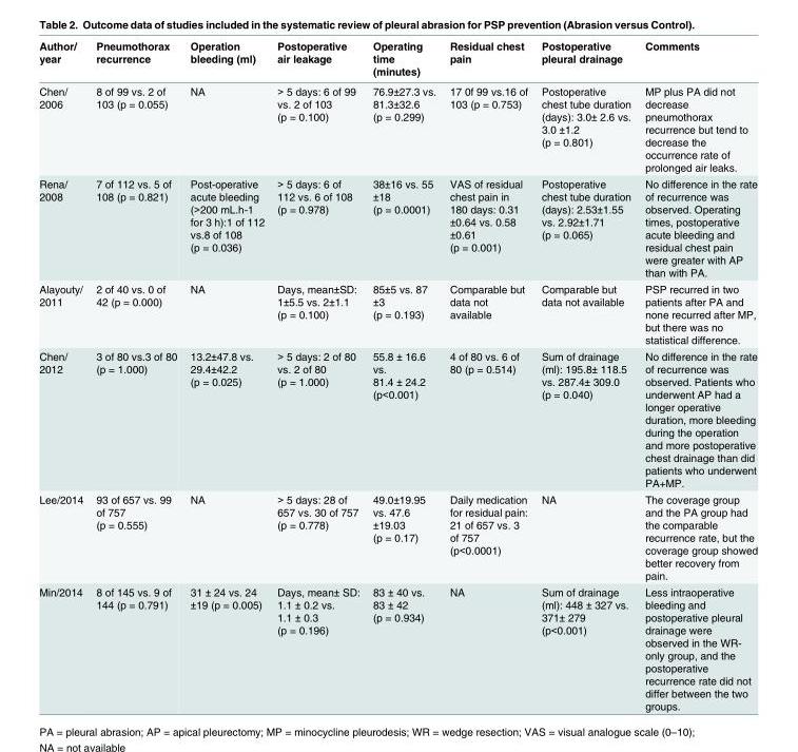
<table><thead><tr><td>Author/ year</td><td>Pneumothorax recurrence</td><td>Operation bleeding (ml)</td><td>Postoperative air leakage</td><td>Operating time (minutes)</td><td>Residual chest pain</td><td>Postoperative pleural drainage</td><td>Comments</td></tr></thead><tbody><tr><td>Chen/ 2006</td><td>8 of 99 vs. 2 of 103 (p = 0.055)</td><td>NA</td><td>&gt; 5 days: 6 of 99 vs. 2 of 103 (p = 0.100)</td><td>76.9±27.3 vs. 81.3±32.6 (p = 0.299)</td><td>17 0f 99 vs.16 of 103 (p = 0.753)</td><td>Postoperative chest tube duration (days): 3.0± 2.6 vs. 3.0 ±1.2 (p = 0.801)</td><td>MP plus PA did not decrease pneumothorax recurrence but tend to decrease the occurrence rate of prolonged air leaks.</td></tr><tr><td>Rena/ 2008</td><td>7 of 112 vs. 5 of 108 (p = 0.821)</td><td>Post-operative acute bleeding (&gt;200 mL.h-1 for 3 h):1 of 112 vs.8 of 108 (p = 0.036)</td><td>&gt; 5 days: 6 of 112 vs. 6 of 108 (p = 0.978)</td><td>38±16 vs. 55 ±18 (p = 0.0001)</td><td>VAS of residual chest pain in 180 days: 0.31 ±0.64 vs. 0.58 ±0.61 (p = 0.001)</td><td>Postoperative chest tube duration (days): 2.53±1.55 vs. 2.92±1.71 (p = 0.065)</td><td>No difference in the rate of recurrence was observed. Operating times, postoperative acute bleeding and residual chest pain were greater with AP than with PA.</td></tr><tr><td>Alayouty/ 2011</td><td>2 of 40 vs. 0 of 42 (p = 0.000)</td><td>NA</td><td>Days, mean±SD: 1±5.5 vs. 2±1.1 (p = 0.100)</td><td>85±5 vs. 87 ±3 (p = 0.193)</td><td>Comparable but data not available</td><td>Comparable but data not available</td><td>PSP recurred in two patients after PA and none recurred after MP, but there was no statistical difference.</td></tr><tr><td>Chen/ 2012</td><td>3 of 80 vs.3 of 80 (p = 1.000)</td><td>13.2±47.8 vs. 29.4±42.2 (p = 0.025)</td><td>&gt; 5 days: 2 of 80 vs. 2 of 80 (p = 1.000)</td><td>55.8 ± 16.6 vs. 81.4 ± 24.2 (p&lt;0.001)</td><td>4 of 80 vs. 6 of 80 (p = 0.514)</td><td>Sum of drainage (ml): 195.8± 118.5 vs. 287.4± 309.0 (p = 0.040)</td><td>No difference in the rate of recurrence was observed. Patients who underwent AP had a longer operative duration, more bleeding during the operation and more postoperative chest drainage than did patients who underwent PA+MP.</td></tr><tr><td>Lee/2014</td><td>93 of 657 vs. 99 of 757 (p = 0.555)</td><td>NA</td><td>&gt; 5 days: 28 of 657 vs. 30 of 757 (p = 0.778)</td><td>49.0±19.95 vs. 47.6 ±19.03 (p = 0.17)</td><td>Daily medication for residual pain: 21 of 657 vs. 3 of 757 (p&lt;0.0001)</td><td>NA</td><td>The coverage group and the PA group had the comparable recurrence rate, but the coverage group showed better recovery from pain.</td></tr><tr><td>Min/2014</td><td>8 of 145 vs. 9 of 144 (p = 0.791)</td><td>31 ± 24 vs. 24 ±19 (p = 0.005)</td><td>Days, mean± SD: 1.1 ± 0.2 vs. 1.1 ± 0.3 (p = 0.196)</td><td>83 ± 40 vs. 83 ± 42 (p = 0.934)</td><td>NA</td><td>Sum of drainage (ml): 448 ± 327 vs. 371± 279 (p&lt;0.001)</td><td>Less intraoperative bleeding and postoperative pleural drainage were observed in the WR- only group, and the postoperative recurrence rate did not differ between the two groups.</td></tr></tbody></table>